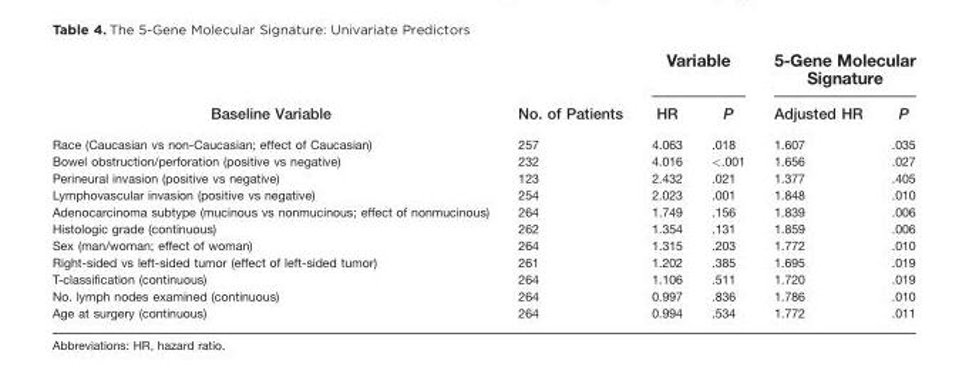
<table><thead><tr><td rowspan="2">Baseline Variable</td><td rowspan="2">No. of Patients</td><td colspan="2">Variable</td><td colspan="2">5-Gene Molecular Signature</td></tr><tr><td>HR</td><td>P</td><td>Adjusted HR</td><td>P</td></tr></thead><tbody><tr><td>Race (Caucasian vs non-Caucasian; effect of Caucasian)</td><td>257</td><td>4.063</td><td>.018</td><td>1.607</td><td>.035</td></tr><tr><td>Bowel obstruction/perforation (positive vs negative)</td><td>232</td><td>4.016</td><td>&lt;.001</td><td>1.656</td><td>.027</td></tr><tr><td>Perineural invasion (positive vs negative)</td><td>123</td><td>2.432</td><td>.021</td><td>1.377</td><td>.405</td></tr><tr><td>Lymphovascular invasion (positive vs negative)</td><td>254</td><td>2.023</td><td>.001</td><td>1.848</td><td>.010</td></tr><tr><td>Adenocarcinoma subtype (mucinous vs nonmucinous; effect of nonmucinous)</td><td>264</td><td>1.749</td><td>.156</td><td>1.839</td><td>.006</td></tr><tr><td>Histologic grade (continuous)</td><td>262</td><td>1.354</td><td>.131</td><td>1.859</td><td>.006</td></tr><tr><td>Sex (man/woman; effect of woman)</td><td>264</td><td>1.315</td><td>.203</td><td>1.772</td><td>.010</td></tr><tr><td>Right-sided vs left-sided tumor (effect of left-sided tumor)</td><td>261</td><td>1.202</td><td>.385</td><td>1.695</td><td>.019</td></tr><tr><td>T-classification (continuous)</td><td>264</td><td>1.106</td><td>.511</td><td>1.720</td><td>.019</td></tr><tr><td>No. lymph nodes examined (continuous)</td><td>264</td><td>0.997</td><td>.836</td><td>1.786</td><td>.010</td></tr><tr><td>Age at surgery (continuous)</td><td>264</td><td>0.994</td><td>.534</td><td>1.772</td><td>.011</td></tr></tbody></table>